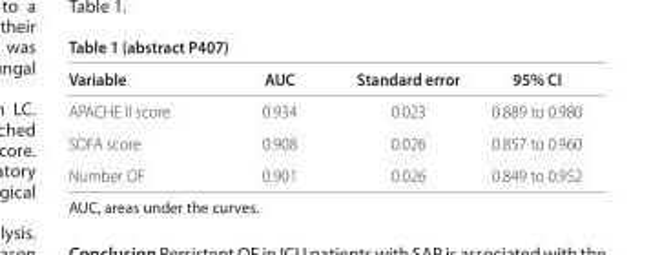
<table><thead><tr><td>Variable</td><td>AUC</td><td>Standard error</td><td>95% CI</td></tr></thead><tbody><tr><td>APACHE II score</td><td>0.934</td><td>0.023</td><td>0.889 to 0.980</td></tr><tr><td>SOFA score</td><td>0.908</td><td>0.026</td><td>0.857 to 0.960</td></tr><tr><td>Number OF</td><td>0.901</td><td>0.026</td><td>0.849 to 0.952</td></tr></tbody></table>